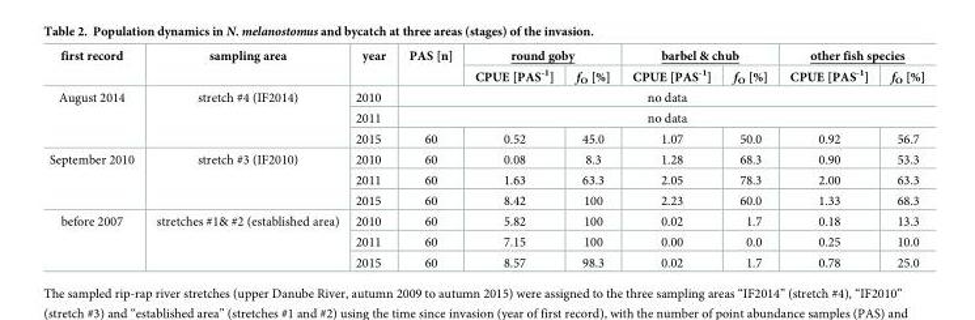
<table><thead><tr><td rowspan="2">first record</td><td rowspan="2">sampling area</td><td rowspan="2">year</td><td rowspan="2">PAS [n]</td><td colspan="2">round goby</td><td colspan="2">barbel &amp; chub</td><td colspan="2">other fish species</td></tr><tr><td>CPUE [PAS<sup>-1</sup>]</td><td>f<sub>O</sub> [%]</td><td>CPUE [PAS<sup>-1</sup>]</td><td>f<sub>O</sub> [%]</td><td>CPUE [PAS<sup>-1</sup>]</td><td>f<sub>O</sub> [%]</td></tr></thead><tbody><tr><td rowspan="3">August 2014</td><td rowspan="3">stretch #4 (IF2014)</td><td>2010</td><td colspan="7">no data</td></tr><tr><td>2011</td><td colspan="7">no data</td></tr><tr><td>2015</td><td>60</td><td>0.52</td><td>45.0</td><td>1.07</td><td>50.0</td><td>0.92</td><td>56.7</td></tr><tr><td rowspan="3">September 2010</td><td rowspan="3">stretch #3 (IF2010)</td><td>2010</td><td>60</td><td>0.08</td><td>8.3</td><td>1.28</td><td>68.3</td><td>0.90</td><td>53.3</td></tr><tr><td>2011</td><td>60</td><td>1.63</td><td>63.3</td><td>2.05</td><td>78.3</td><td>2.00</td><td>63.3</td></tr><tr><td>2015</td><td>60</td><td>8.42</td><td>100</td><td>2.23</td><td>60.0</td><td>1.33</td><td>68.3</td></tr><tr><td rowspan="3">before 2007</td><td rowspan="3">stretches #1&amp; #2 (established area)</td><td>2010</td><td>60</td><td>5.82</td><td>100</td><td>0.02</td><td>1.7</td><td>0.18</td><td>13.3</td></tr><tr><td>2011</td><td>60</td><td>7.15</td><td>100</td><td>0.00</td><td>0.0</td><td>0.25</td><td>10.0</td></tr><tr><td>2015</td><td>60</td><td>8.57</td><td>98.3</td><td>0.02</td><td>1.7</td><td>0.78</td><td>25.0</td></tr></tbody></table>